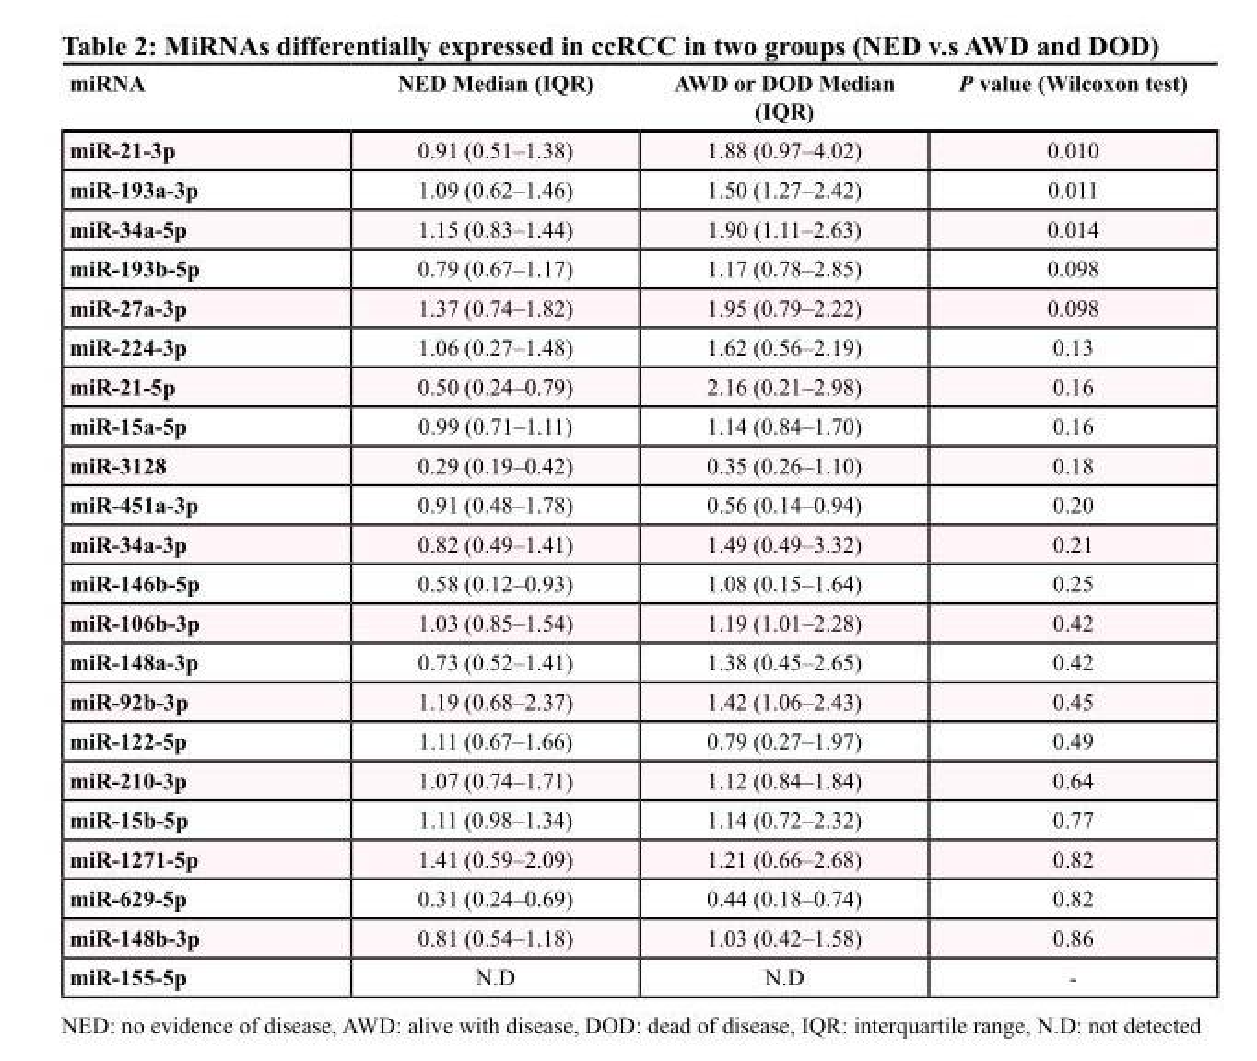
<table><thead><tr><td>miRNA</td><td>NED Median (IQR)</td><td>AWD or DOD Median (IQR)</td><td>P value (Wilcoxon test)</td></tr></thead><tbody><tr><td>miR-21-3p</td><td>0.91 (0.51–1.38)</td><td>1.88 (0.97–4.02)</td><td>0.010</td></tr><tr><td>miR-193a-3p</td><td>1.09 (0.62–1.46)</td><td>1.50 (1.27–2.42)</td><td>0.011</td></tr><tr><td>miR-34a-5p</td><td>1.15 (0.83–1.44)</td><td>1.90 (1.11–2.63)</td><td>0.014</td></tr><tr><td>miR-193b-5p</td><td>0.79 (0.67–1.17)</td><td>1.17 (0.78–2.85)</td><td>0.098</td></tr><tr><td>miR-27a-3p</td><td>1.37 (0.74–1.82)</td><td>1.95 (0.79–2.22)</td><td>0.098</td></tr><tr><td>miR-224-3p</td><td>1.06 (0.27–1.48)</td><td>1.62 (0.56–2.19)</td><td>0.13</td></tr><tr><td>miR-21-5p</td><td>0.50 (0.24–0.79)</td><td>2.16 (0.21–2.98)</td><td>0.16</td></tr><tr><td>miR-15a-5p</td><td>0.99 (0.71–1.11)</td><td>1.14 (0.84–1.70)</td><td>0.16</td></tr><tr><td>miR-3128</td><td>0.29 (0.19–0.42)</td><td>0.35 (0.26–1.10)</td><td>0.18</td></tr><tr><td>miR-451a-3p</td><td>0.91 (0.48–1.78)</td><td>0.56 (0.14–0.94)</td><td>0.20</td></tr><tr><td>miR-34a-3p</td><td>0.82 (0.49–1.41)</td><td>1.49 (0.49–3.32)</td><td>0.21</td></tr><tr><td>miR-146b-5p</td><td>0.58 (0.12–0.93)</td><td>1.08 (0.15–1.64)</td><td>0.25</td></tr><tr><td>miR-106b-3p</td><td>1.03 (0.85–1.54)</td><td>1.19 (1.01–2.28)</td><td>0.42</td></tr><tr><td>miR-148a-3p</td><td>0.73 (0.52–1.41)</td><td>1.38 (0.45–2.65)</td><td>0.42</td></tr><tr><td>miR-92b-3p</td><td>1.19 (0.68–2.37)</td><td>1.42 (1.06–2.43)</td><td>0.45</td></tr><tr><td>miR-122-5p</td><td>1.11 (0.67–1.66)</td><td>0.79 (0.27–1.97)</td><td>0.49</td></tr><tr><td>miR-210-3p</td><td>1.07 (0.74–1.71)</td><td>1.12 (0.84–1.84)</td><td>0.64</td></tr><tr><td>miR-15b-5p</td><td>1.11 (0.98–1.34)</td><td>1.14 (0.72–2.32)</td><td>0.77</td></tr><tr><td>miR-1271-5p</td><td>1.41 (0.59–2.09)</td><td>1.21 (0.66–2.68)</td><td>0.82</td></tr><tr><td>miR-629-5p</td><td>0.31 (0.24–0.69)</td><td>0.44 (0.18–0.74)</td><td>0.82</td></tr><tr><td>miR-148b-3p</td><td>0.81 (0.54–1.18)</td><td>1.03 (0.42–1.58)</td><td>0.86</td></tr><tr><td>miR-155-5p</td><td>N.D</td><td>N.D</td><td>-</td></tr></tbody></table>